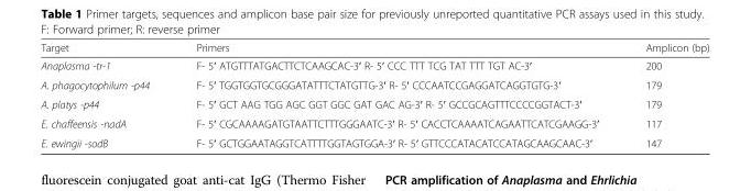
<table><thead><tr><td>Target</td><td>Primers</td><td>Amplicon (bp)</td></tr></thead><tbody><tr><td>Anaplasma -tr-1</td><td>F- 5′ ATGTTTATGACTTCTCAAGCAC-3′ R- 5′ CCC TTT TCG TAT TTT TGT AC-3′</td><td>200</td></tr><tr><td>A. phagocytophilum -p44</td><td>F- 5′ TGGTGGTGCGGGATATTTCTATGTTG-3′ R- 5′ CCCAATCCGAGGATCAGGTGTG-3′</td><td>179</td></tr><tr><td>A. platys -p44</td><td>F- 5′ GCT AAG TGG AGC GGT GGC GAT GAC AG-3′ R- 5′ GCCGCAGTTTCCCCGGTACT-3′</td><td>179</td></tr><tr><td>E. chaffeensis -nadA</td><td>F- 5′ CGCAAAAGATGTAATTCTTTGGGAATC-3′ R- 5′ CACCTCAAAATCAGAATTCATCGAAGG-3′</td><td>117</td></tr><tr><td>E. ewingii -sodB</td><td>F- 5′ GCTGGAATAGGTCATTTTGGTAGTGGA-3′ R- 5′ GTTCCCATACATCCATAGCAAGCAAC-3′</td><td>147</td></tr></tbody></table>